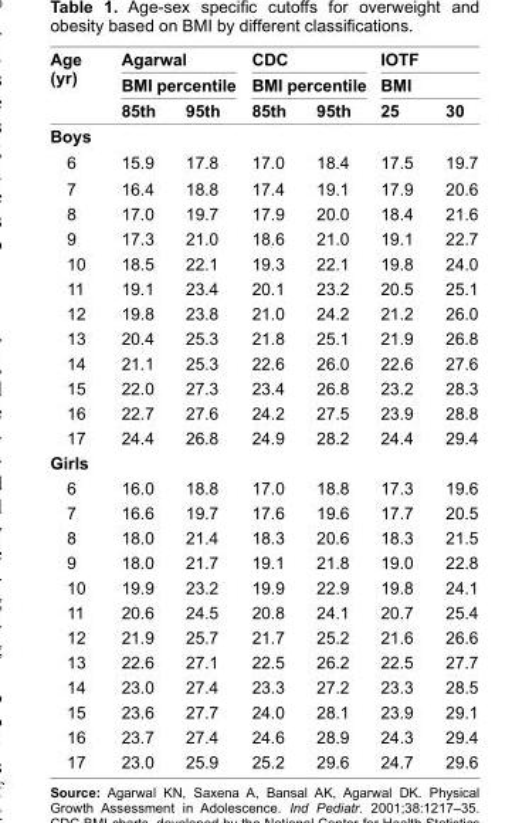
<table><thead><tr><td rowspan="3">Age (yr)</td><td rowspan="2" colspan="2">Agarwal BMI percentile</td><td rowspan="2" colspan="2">cDc BMI percentile</td><td rowspan="2" colspan="2">IOTF BMI</td></tr><tr></tr><tr><td>85th</td><td>95th</td><td>85th</td><td>95th</td><td>25</td><td>30</td></tr></thead><tbody><tr><td colspan="7">Boys</td></tr><tr><td>6</td><td>15.9</td><td>17.8</td><td>17.0</td><td>18.4</td><td>17.5</td><td>19.7</td></tr><tr><td>7</td><td>16.4</td><td>18.8</td><td>17.4</td><td>19.1</td><td>17.9</td><td>20.6</td></tr><tr><td>8</td><td>17.0</td><td>19.7</td><td>17.9</td><td>20.0</td><td>18.4</td><td>21.6</td></tr><tr><td>9</td><td>17.3</td><td>21.0</td><td>18.6</td><td>21.0</td><td>19.1</td><td>22.7</td></tr><tr><td>10</td><td>18.5</td><td>22.1</td><td>19.3</td><td>22.1</td><td>19.8</td><td>24.0</td></tr><tr><td>11</td><td>19.1</td><td>23.4</td><td>20.1</td><td>23.2</td><td>20.5</td><td>25.1</td></tr><tr><td>12</td><td>19.8</td><td>23.8</td><td>21.0</td><td>24.2</td><td>21.2</td><td>26.0</td></tr><tr><td>13</td><td>20.4</td><td>25.3</td><td>21.8</td><td>25.1</td><td>21.9</td><td>26.8</td></tr><tr><td>14</td><td>21.1</td><td>25.3</td><td>22.6</td><td>26.0</td><td>22.6</td><td>27.6</td></tr><tr><td>15</td><td>22.0</td><td>27.3</td><td>23.4</td><td>26.8</td><td>23.2</td><td>28.3</td></tr><tr><td>16</td><td>22.7</td><td>27.6</td><td>24.2</td><td>27.5</td><td>23.9</td><td>28.8</td></tr><tr><td>17</td><td>24.4</td><td>26.8</td><td>24.9</td><td>28.2</td><td>24.4</td><td>29.4</td></tr><tr><td colspan="7">Girls</td></tr><tr><td>6</td><td>16.0</td><td>18.8</td><td>17.0</td><td>18.8</td><td>17.3</td><td>19.6</td></tr><tr><td>7</td><td>16.6</td><td>19.7</td><td>17.6</td><td>19.6</td><td>17.7</td><td>20.5</td></tr><tr><td>8</td><td>18.0</td><td>21.4</td><td>18.3</td><td>20.6</td><td>18.3</td><td>21.5</td></tr><tr><td>9</td><td>18.0</td><td>21.7</td><td>19.1</td><td>21.8</td><td>19.0</td><td>22.8</td></tr><tr><td>10</td><td>19.9</td><td>23.2</td><td>19.9</td><td>22.9</td><td>19.8</td><td>24.1</td></tr><tr><td>11</td><td>20.6</td><td>24.5</td><td>20.8</td><td>24.1</td><td>20.7</td><td>25.4</td></tr><tr><td>12</td><td>21.9</td><td>25.7</td><td>21.7</td><td>25.2</td><td>21.6</td><td>26.6</td></tr><tr><td>13</td><td>22.6</td><td>27.1</td><td>22.5</td><td>26.2</td><td>22.5</td><td>27.7</td></tr><tr><td>14</td><td>23.0</td><td>27.4</td><td>23.3</td><td>27.2</td><td>23.3</td><td>28.5</td></tr><tr><td>15</td><td>23.6</td><td>27.7</td><td>24.0</td><td>28.1</td><td>23.9</td><td>29.1</td></tr><tr><td>16</td><td>23.7</td><td>27.4</td><td>24.6</td><td>28.9</td><td>24.3</td><td>29.4</td></tr><tr><td>17</td><td>23.0</td><td>25.9</td><td>25.2</td><td>29.6</td><td>24.7</td><td>29.6</td></tr></tbody></table>